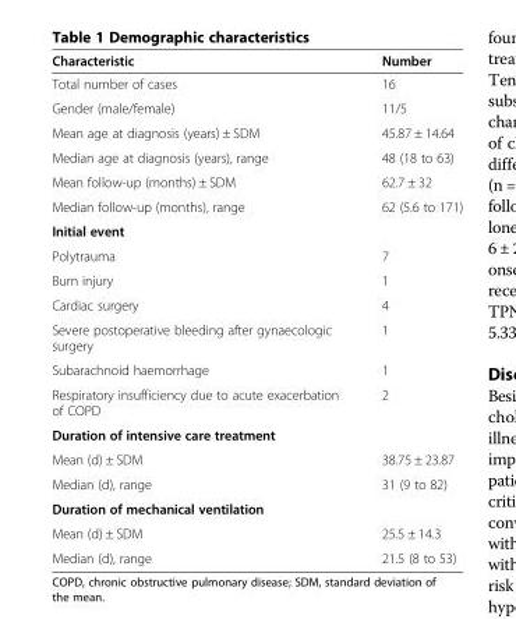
<table><thead><tr><td>Characteristic</td><td>Number</td></tr></thead><tbody><tr><td>Total number of cases</td><td>16</td></tr><tr><td>Gender (male/female)</td><td>11/5</td></tr><tr><td>Mean age at diagnosis (years) ± SDM</td><td>45.87 ± 14.64</td></tr><tr><td>Median age at diagnosis (years), range</td><td>48 (18 to 63)</td></tr><tr><td>Mean follow-up (months) ± SDM</td><td>62.7 ± 32</td></tr><tr><td>Median follow-up (months), range</td><td>62 (5.6 to 171)</td></tr><tr><td colspan="2">Initial event</td></tr><tr><td>Polytrauma</td><td>7</td></tr><tr><td>Burn injury</td><td>1</td></tr><tr><td>Cardiac surgery</td><td>4</td></tr><tr><td>Severe postoperative bleeding after gynaecologic surgery</td><td>1</td></tr><tr><td>Subarachnoid haemorrhage</td><td>1</td></tr><tr><td>Respiratory insufficiency due to acute exacerbation of COPD</td><td>2</td></tr><tr><td colspan="2">Duration of intensive care treatment</td></tr><tr><td>Mean (d) ± SDM</td><td>38.75 ± 23.87</td></tr><tr><td>Median (d), range</td><td>31 (9 to 82)</td></tr><tr><td colspan="2">Duration of mechanical ventilation</td></tr><tr><td>Mean (d) ± SDM</td><td>25.5 ± 14.3</td></tr><tr><td>Median (d), range</td><td>21.5 (8 to 53)</td></tr></tbody></table>